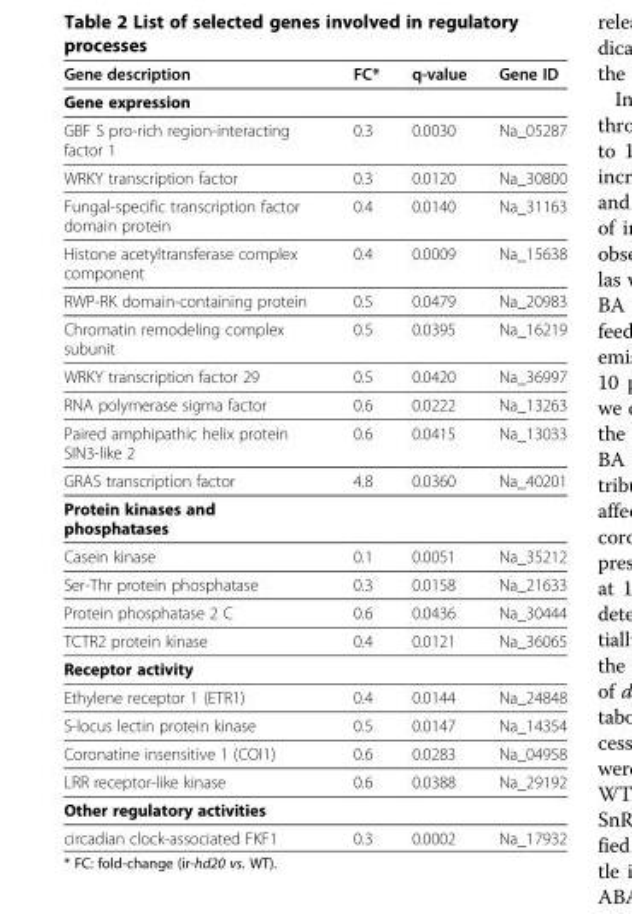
<table><thead><tr><td>Gene description</td><td>FC*</td><td>q-value</td><td>Gene ID</td></tr></thead><tbody><tr><td colspan="4">Gene expression</td></tr><tr><td>GBF S pro-rich region-interacting factor 1</td><td>0.3</td><td>0.0030</td><td>Na_05287</td></tr><tr><td>WRKY transcription factor</td><td>0.3</td><td>0.0120</td><td>Na_30800</td></tr><tr><td>Fungal-specific transcription factor domain protein</td><td>0.4</td><td>0.0140</td><td>Na_31163</td></tr><tr><td>Histone acetyltransferase complex component</td><td>0.4</td><td>0.0009</td><td>Na_15638</td></tr><tr><td>RWP-RK domain-containing protein</td><td>0.5</td><td>0.0479</td><td>Na_20983</td></tr><tr><td>Chromatin remodeling complex subunit</td><td>0.5</td><td>0.0395</td><td>Na_16219</td></tr><tr><td>WRKY transcription factor 29</td><td>0.5</td><td>0.0420</td><td>Na_36997</td></tr><tr><td>RNA polymerase sigma factor</td><td>0.6</td><td>0.0222</td><td>Na_13263</td></tr><tr><td>Paired amphipathic helix protein SIN3-like 2</td><td>0.6</td><td>0.0415</td><td>Na_13033</td></tr><tr><td>GRAS transcription factor</td><td>4.8</td><td>0.0360</td><td>Na_40201</td></tr><tr><td colspan="4">Protein kinases and phosphatases</td></tr><tr><td>Casein kinase</td><td>0.1</td><td>0.0051</td><td>Na_35212</td></tr><tr><td>Ser-Thr protein phosphatase</td><td>0.3</td><td>0.0158</td><td>Na_21633</td></tr><tr><td>Protein phosphatase 2 C</td><td>0.6</td><td>0.0436</td><td>Na_30444</td></tr><tr><td>TCTR2 protein kinase</td><td>0.4</td><td>0.0121</td><td>Na_36065</td></tr><tr><td colspan="4">Receptor activity</td></tr><tr><td>Ethylene receptor 1 (ETR1)</td><td>0.4</td><td>0.0144</td><td>Na_24848</td></tr><tr><td>S-locus lectin protein kinase</td><td>0.5</td><td>0.0147</td><td>Na_14354</td></tr><tr><td>Coronatine insensitive 1 (COI1)</td><td>0.6</td><td>0.0283</td><td>Na_04958</td></tr><tr><td>LRR receptor-like kinase</td><td>0.6</td><td>0.0388</td><td>Na_29192</td></tr><tr><td colspan="4">Other regulatory activities</td></tr><tr><td>circadian clock-associated FKF1</td><td>0.3</td><td>0.0002</td><td>Na_17932</td></tr></tbody></table>